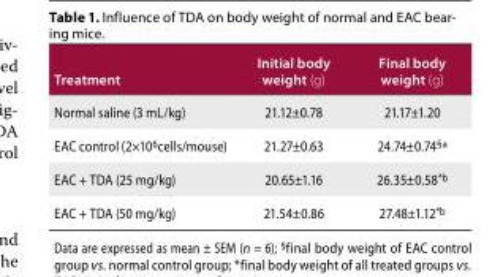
<table><thead><tr><td>Treatment</td><td>Initial body weight (g)</td><td>Final body weight (g)</td></tr></thead><tbody><tr><td>Normal saline (3 mL/kg)</td><td>21.12±0.78</td><td>21.17±1.20</td></tr><tr><td>EAC control (2×10<sup>6</sup>cells/mouse)</td><td>21.27±0.63</td><td>24.74±0.74§<sup>a</sup></td></tr><tr><td>EAC + TDA (25 mg/kg)</td><td>20.65±1.16</td><td>26.35±0.58*<sup>b</sup></td></tr><tr><td>EAC + TDA (50 mg/kg)</td><td>21.54±0.86</td><td>27.48±1.12*<sup>b</sup></td></tr></tbody></table>